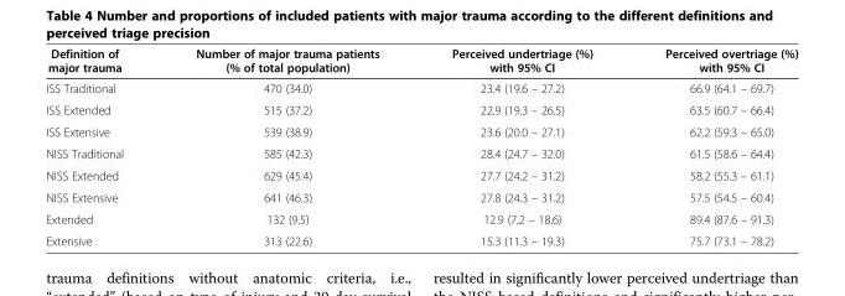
<table><thead><tr><td>Definition of major trauma</td><td>Number of major trauma patients (% of total population)</td><td>Perceived undertriage (%) with 95% CI</td><td>Perceived overtriage (%) with 95% CI</td></tr></thead><tbody><tr><td>ISS Traditional</td><td>470 (34.0)</td><td>23.4 (19.6 – 27.2)</td><td>66.9 (64.1 – 69.7)</td></tr><tr><td>ISS Extended</td><td>515 (37.2)</td><td>22.9 (19.3 – 26.5)</td><td>63.5 (60.7 – 66.4)</td></tr><tr><td>ISS Extensive</td><td>539 (38.9)</td><td>23.6 (20.0 – 27.1)</td><td>62.2 (59.3 – 65.0)</td></tr><tr><td>NISS Traditional</td><td>585 (42.3)</td><td>28.4 (24.7 – 32.0)</td><td>61.5 (58.6 – 64.4)</td></tr><tr><td>NISS Extended</td><td>629 (45.4)</td><td>27.7 (24.2 – 31.2)</td><td>58.2 (55.3 – 61.1)</td></tr><tr><td>NISS Extensive</td><td>641 (46.3)</td><td>27.8 (24.3 – 31.2)</td><td>57.5 (54.5 – 60.4)</td></tr><tr><td>Extended</td><td>132 (9.5)</td><td>12.9 (7.2 – 18.6)</td><td>89.4 (87.6 – 91.3)</td></tr><tr><td>Extensive</td><td>313 (22.6)</td><td>15.3 (11.3 – 19.3)</td><td>75.7 (73.1 – 78.2)</td></tr></tbody></table>